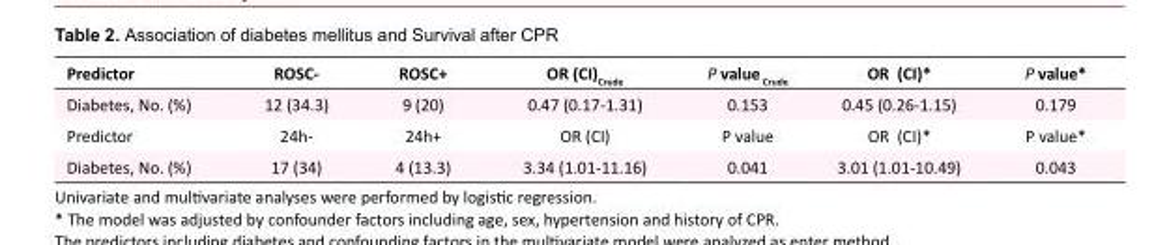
<table><tbody><tr><td>Predictor</td><td>ROSC-</td><td>ROSC+</td><td>OR (CI)<sub>Crude</sub></td><td>P value <sub>Crude</sub></td><td>OR (CI)*</td><td>P value*</td></tr><tr><td>Diabetes, No. (%)</td><td>12 (34.3)</td><td>9 (20)</td><td>0.47 (0.17-1.31)</td><td>0.153</td><td>0.45 (0.26-1.15)</td><td>0.179</td></tr><tr><td>Predictor</td><td>24h-</td><td>24h+</td><td>OR (CI)</td><td>P value</td><td>OR (CI)*</td><td>P value*</td></tr><tr><td>Diabetes, No. (%)</td><td>17 (34)</td><td>4 (13.3)</td><td>3.34 (1.01-11.16)</td><td>0.041</td><td>3.01 (1.01-10.49)</td><td>0.043</td></tr></tbody></table>